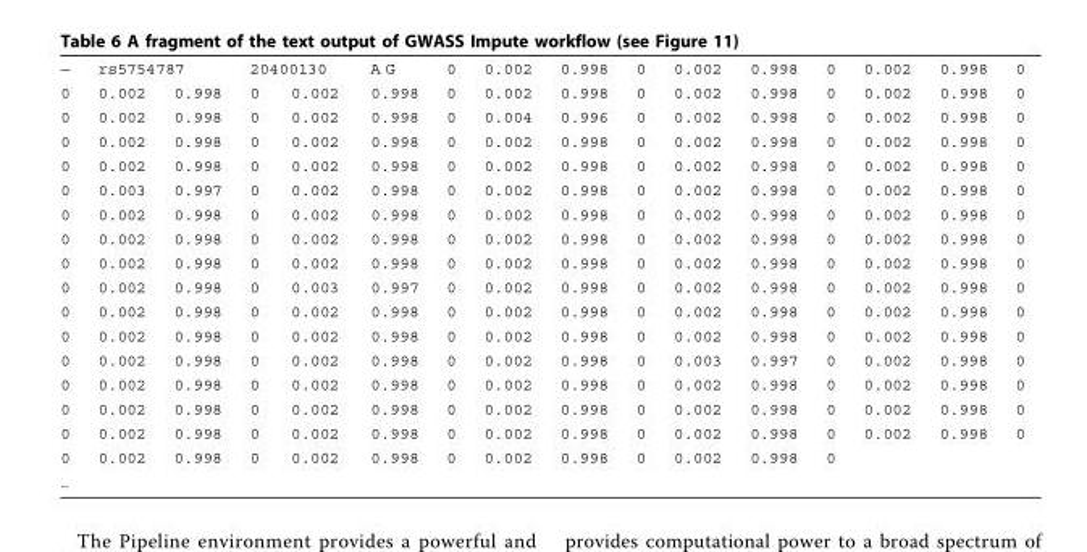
<table><tbody><tr><td>—</td><td colspan="2">rs5754787</td><td colspan="2">20400130</td><td>A G</td><td>0</td><td>0.002</td><td>0.998</td><td>0</td><td>0.002</td><td>0.998</td><td>0</td><td>0.002</td><td>0.998</td><td>0</td></tr><tr><td>0</td><td>0.002</td><td>0.998</td><td>0</td><td>0.002</td><td>0.998</td><td>0</td><td>0.002</td><td>0.998</td><td>0</td><td>0.002</td><td>0.998</td><td>0</td><td>0.002</td><td>0.998</td><td>0</td></tr><tr><td>0</td><td>0.002</td><td>0.998</td><td>0</td><td>0.002</td><td>0.998</td><td>0</td><td>0.004</td><td>0.996</td><td>0</td><td>0.002</td><td>0.998</td><td>0</td><td>0.002</td><td>0.998</td><td>0</td></tr><tr><td>0</td><td>0.002</td><td>0.998</td><td>0</td><td>0.002</td><td>0.998</td><td>0</td><td>0.002</td><td>0.998</td><td>0</td><td>0.002</td><td>0.998</td><td>0</td><td>0.002</td><td>0.998</td><td>0</td></tr><tr><td>0</td><td>0.002</td><td>0.998</td><td>0</td><td>0.002</td><td>0.998</td><td>0</td><td>0.002</td><td>0.998</td><td>0</td><td>0.002</td><td>0.998</td><td>0</td><td>0.002</td><td>0.998</td><td>0</td></tr><tr><td>0</td><td>0.003</td><td>0.997</td><td>0</td><td>0.002</td><td>0.998</td><td>0</td><td>0.002</td><td>0.998</td><td>0</td><td>0.002</td><td>0.998</td><td>0</td><td>0.002</td><td>0.998</td><td>0</td></tr><tr><td>0</td><td>0.002</td><td>0.998</td><td>0</td><td>0.002</td><td>0.998</td><td>0</td><td>0.002</td><td>0.998</td><td>0</td><td>0.002</td><td>0.998</td><td>0</td><td>0.002</td><td>0.998</td><td>0</td></tr><tr><td>0</td><td>0.002</td><td>0.998</td><td>0</td><td>0.002</td><td>0.998</td><td>0</td><td>0.002</td><td>0.998</td><td>0</td><td>0.002</td><td>0.998</td><td>0</td><td>0.002</td><td>0.998</td><td>0</td></tr><tr><td>0</td><td>0.002</td><td>0.998</td><td>0</td><td>0.002</td><td>0.998</td><td>0</td><td>0.002</td><td>0.998</td><td>0</td><td>0.002</td><td>0.998</td><td>0</td><td>0.002</td><td>0.998</td><td>0</td></tr><tr><td>0</td><td>0.002</td><td>0.998</td><td>0</td><td>0.003</td><td>0.997</td><td>0</td><td>0.002</td><td>0.998</td><td>0</td><td>0.002</td><td>0.998</td><td>0</td><td>0.002</td><td>0.998</td><td>0</td></tr><tr><td>0</td><td>0.002</td><td>0.998</td><td>0</td><td>0.002</td><td>0.998</td><td>0</td><td>0.002</td><td>0.998</td><td>0</td><td>0.002</td><td>0.998</td><td>0</td><td>0.002</td><td>0.998</td><td>0</td></tr><tr><td>0</td><td>0.002</td><td>0.998</td><td>0</td><td>0.002</td><td>0.998</td><td>0</td><td>0.002</td><td>0.998</td><td>0</td><td>0.002</td><td>0.998</td><td>0</td><td>0.002</td><td>0.998</td><td>0</td></tr><tr><td>0</td><td>0.002</td><td>0.998</td><td>0</td><td>0.002</td><td>0.998</td><td>0</td><td>0.002</td><td>0.998</td><td>0</td><td>0.003</td><td>0.997</td><td>0</td><td>0.002</td><td>0.998</td><td>0</td></tr><tr><td>0</td><td>0.002</td><td>0.998</td><td>0</td><td>0.002</td><td>0.998</td><td>0</td><td>0.002</td><td>0.998</td><td>0</td><td>0.002</td><td>0.998</td><td>0</td><td>0.002</td><td>0.998</td><td>0</td></tr><tr><td>0</td><td>0.002</td><td>0.998</td><td>0</td><td>0.002</td><td>0.998</td><td>0</td><td>0.002</td><td>0.998</td><td>0</td><td>0.002</td><td>0.998</td><td>0</td><td>0.002</td><td>0.998</td><td>0</td></tr><tr><td>0</td><td>0.002</td><td>0.998</td><td>0</td><td>0.002</td><td>0.998</td><td>0</td><td>0.002</td><td>0.998</td><td>0</td><td>0.002</td><td>0.998</td><td>0</td><td>0.002</td><td>0.998</td><td>0</td></tr><tr><td>0</td><td>0.002</td><td>0.998</td><td>0</td><td>0.002</td><td>0.998</td><td>0</td><td>0.002</td><td>0.998</td><td>0</td><td>0.002</td><td>0.998</td><td>0</td><td></td><td></td><td></td></tr><tr><td colspan="16">...</td></tr></tbody></table>